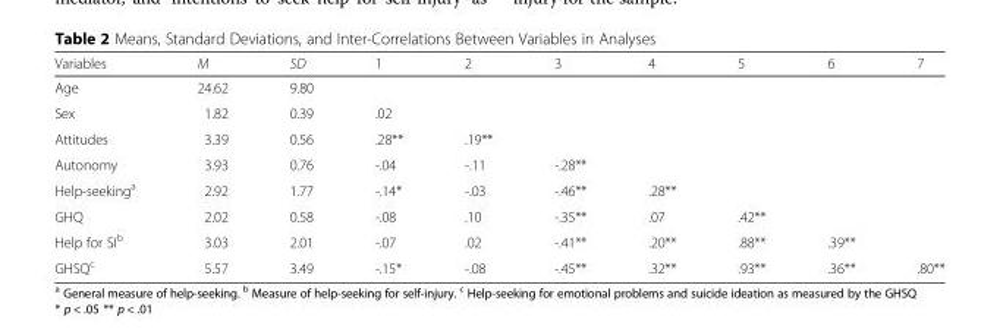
<table><thead><tr><td>Variables</td><td>M</td><td>SD</td><td>1</td><td>2</td><td>3</td><td>4</td><td>5</td><td>6</td><td>7</td></tr></thead><tbody><tr><td>Age</td><td>24.62</td><td>9.80</td><td></td><td></td><td></td><td></td><td></td><td></td><td></td></tr><tr><td>Sex</td><td>1.82</td><td>0.39</td><td>.02</td><td></td><td></td><td></td><td></td><td></td><td></td></tr><tr><td>Attitudes</td><td>3.39</td><td>0.56</td><td>.28**</td><td>.19**</td><td></td><td></td><td></td><td></td><td></td></tr><tr><td>Autonomy</td><td>3.93</td><td>0.76</td><td>-.04</td><td>-.11</td><td>-.28**</td><td></td><td></td><td></td><td></td></tr><tr><td>Help-seeking<sup>a</sup></td><td>2.92</td><td>1.77</td><td>-.14*</td><td>-.03</td><td>-.46**</td><td>.28**</td><td></td><td></td><td></td></tr><tr><td>GHQ</td><td>2.02</td><td>0.58</td><td>-.08</td><td>.10</td><td>-.35**</td><td>.07</td><td>.42**</td><td></td><td></td></tr><tr><td>Help for SI<sup>b</sup></td><td>3.03</td><td>2.01</td><td>-.07</td><td>.02</td><td>-.41**</td><td>.20**</td><td>.88**</td><td>.39**</td><td></td></tr><tr><td>GHSQ<sup>c</sup></td><td>5.57</td><td>3.49</td><td>-.15*</td><td>-.08</td><td>-.45**</td><td>.32**</td><td>.93**</td><td>.36**</td><td>.80**</td></tr></tbody></table>